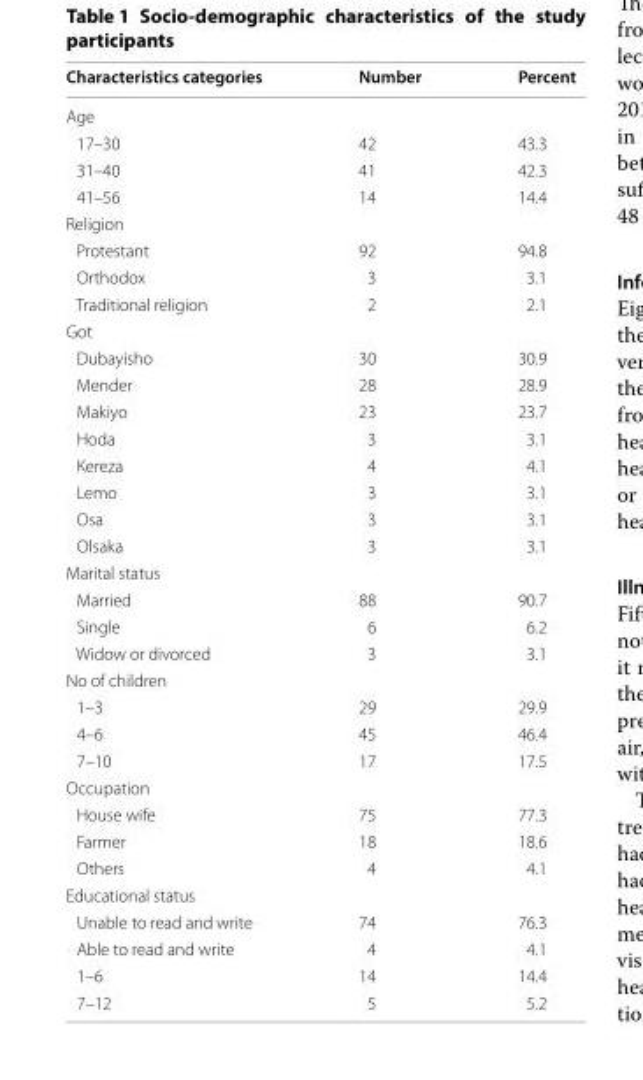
<table><thead><tr><td>Characteristics categories</td><td>Number</td><td>Percent</td></tr></thead><tbody><tr><td colspan="3">Age</td></tr><tr><td>17–30</td><td>42</td><td>43.3</td></tr><tr><td>31–40</td><td>41</td><td>42.3</td></tr><tr><td>41–56</td><td>14</td><td>14.4</td></tr><tr><td colspan="3">Religion</td></tr><tr><td>Protestant</td><td>92</td><td>94.8</td></tr><tr><td>Orthodox</td><td>3</td><td>3.1</td></tr><tr><td>Traditional religion</td><td>2</td><td>2.1</td></tr><tr><td colspan="3">Got</td></tr><tr><td>Dubayisho</td><td>30</td><td>30.9</td></tr><tr><td>Mender</td><td>28</td><td>28.9</td></tr><tr><td>Makiyo</td><td>23</td><td>23.7</td></tr><tr><td>Hoda</td><td>3</td><td>3.1</td></tr><tr><td>Kereza</td><td>4</td><td>4.1</td></tr><tr><td>Lemo</td><td>3</td><td>3.1</td></tr><tr><td>Osa</td><td>3</td><td>3.1</td></tr><tr><td>Olsaka</td><td>3</td><td>3.1</td></tr><tr><td colspan="3">Marital status</td></tr><tr><td>Married</td><td>88</td><td>90.7</td></tr><tr><td>Single</td><td>6</td><td>6.2</td></tr><tr><td>Widow or divorced</td><td>3</td><td>3.1</td></tr><tr><td colspan="3">No of children</td></tr><tr><td>1–3</td><td>29</td><td>29.9</td></tr><tr><td>4–6</td><td>45</td><td>46.4</td></tr><tr><td>7–10</td><td>17</td><td>17.5</td></tr><tr><td colspan="3">Occupation</td></tr><tr><td>House wife</td><td>75</td><td>77.3</td></tr><tr><td>Farmer</td><td>18</td><td>18.6</td></tr><tr><td>Others</td><td>4</td><td>4.1</td></tr><tr><td colspan="3">Educational status</td></tr><tr><td>Unable to read and write</td><td>74</td><td>76.3</td></tr><tr><td>Able to read and write</td><td>4</td><td>4.1</td></tr><tr><td>1–6</td><td>14</td><td>14.4</td></tr><tr><td>7–12</td><td>5</td><td>5.2</td></tr></tbody></table>